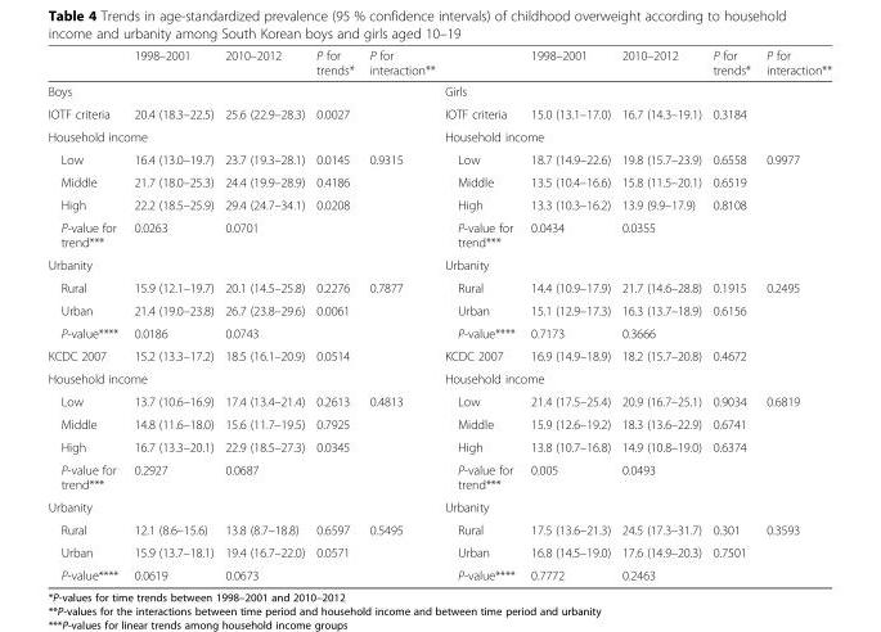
<table><thead><tr><td></td><td>1998–2001</td><td>2010–2012</td><td>P for trends*</td><td>P for interaction**</td><td></td><td>1998–2001</td><td>2010–2012</td><td>P for trends*</td><td>P for interaction**</td></tr></thead><tbody><tr><td>Boys</td><td></td><td></td><td></td><td></td><td>Girls</td><td></td><td></td><td></td><td></td></tr><tr><td>IOTF criteria</td><td>20.4 (18.3–22.5)</td><td>25.6 (22.9–28.3)</td><td>0.0027</td><td></td><td>IOTF criteria</td><td>15.0 (13.1–17.0)</td><td>16.7 (14.3–19.1)</td><td>0.3184</td><td></td></tr><tr><td colspan="2">Household income</td><td></td><td></td><td></td><td colspan="2">Household income</td><td></td><td></td><td></td></tr><tr><td>Low</td><td>16.4 (13.0–19.7)</td><td>23.7 (19.3–28.1)</td><td>0.0145</td><td>0.9315</td><td>Low</td><td>18.7 (14.9–22.6)</td><td>19.8 (15.7–23.9)</td><td>0.6558</td><td>0.9977</td></tr><tr><td>Middle</td><td>21.7 (18.0–25.3)</td><td>24.4 (19.9–28.9)</td><td>0.4186</td><td></td><td>Middle</td><td>13.5 (10.4–16.6)</td><td>15.8 (11.5–20.1)</td><td>0.6519</td><td></td></tr><tr><td>High</td><td>22.2 (18.5–25.9)</td><td>29.4 (24.7–34.1)</td><td>0.0208</td><td></td><td>High</td><td>13.3 (10.3–16.2)</td><td>13.9 (9.9–17.9)</td><td>0.8108</td><td></td></tr><tr><td>P-value for trend***</td><td>0.0263</td><td>0.0701</td><td></td><td></td><td>P-value for trend***</td><td>0.0434</td><td>0.0355</td><td></td><td></td></tr><tr><td>Urbanity</td><td></td><td></td><td></td><td></td><td>Urbanity</td><td></td><td></td><td></td><td></td></tr><tr><td>Rural</td><td>15.9 (12.1–19.7)</td><td>20.1 (14.5–25.8)</td><td>0.2276</td><td>0.7877</td><td>Rural</td><td>14.4 (10.9–17.9)</td><td>21.7 (14.6–28.8)</td><td>0.1915</td><td>0.2495</td></tr><tr><td>Urban</td><td>21.4 (19.0–23.8)</td><td>26.7 (23.8–29.6)</td><td>0.0061</td><td></td><td>Urban</td><td>15.1 (12.9–17.3)</td><td>16.3 (13.7–18.9)</td><td>0.6156</td><td></td></tr><tr><td>P-value****</td><td>0.0186</td><td>0.0743</td><td></td><td></td><td>P-value****</td><td>0.7173</td><td>0.3666</td><td></td><td></td></tr><tr><td>KCDC 2007</td><td>15.2 (13.3–17.2)</td><td>18.5 (16.1–20.9)</td><td>0.0514</td><td></td><td>KCDC 2007</td><td>16.9 (14.9–18.9)</td><td>18.2 (15.7–20.8)</td><td>0.4672</td><td></td></tr><tr><td colspan="2">Household income</td><td></td><td></td><td></td><td colspan="2">Household income</td><td></td><td></td><td></td></tr><tr><td>Low</td><td>13.7 (10.6–16.9)</td><td>17.4 (13.4–21.4)</td><td>0.2613</td><td>0.4813</td><td>Low</td><td>21.4 (17.5–25.4)</td><td>20.9 (16.7–25.1)</td><td>0.9034</td><td>0.6819</td></tr><tr><td>Middle</td><td>14.8 (11.6–18.0)</td><td>15.6 (11.7–19.5)</td><td>0.7925</td><td></td><td>Middle</td><td>15.9 (12.6–19.2)</td><td>18.3 (13.6–22.9)</td><td>0.6741</td><td></td></tr><tr><td>High</td><td>16.7 (13.3–20.1)</td><td>22.9 (18.5–27.3)</td><td>0.0345</td><td></td><td>High</td><td>13.8 (10.7–16.8)</td><td>14.9 (10.8–19.0)</td><td>0.6374</td><td></td></tr><tr><td>P-value for trend***</td><td>0.2927</td><td>0.0687</td><td></td><td></td><td>P-value for trend***</td><td>0.005</td><td>0.0493</td><td></td><td></td></tr><tr><td>Urbanity</td><td></td><td></td><td></td><td></td><td>Urbanity</td><td></td><td></td><td></td><td></td></tr><tr><td>Rural</td><td>12.1 (8.6–15.6)</td><td>13.8 (8.7–18.8)</td><td>0.6597</td><td>0.5495</td><td>Rural</td><td>17.5 (13.6–21.3)</td><td>24.5 (17.3–31.7)</td><td>0.301</td><td>0.3593</td></tr><tr><td>Urban</td><td>15.9 (13.7–18.1)</td><td>19.4 (16.7–22.0)</td><td>0.0571</td><td></td><td>Urban</td><td>16.8 (14.5–19.0)</td><td>17.6 (14.9–20.3)</td><td>0.7501</td><td></td></tr><tr><td>P-value****</td><td>0.0619</td><td>0.0673</td><td></td><td></td><td>P-value****</td><td>0.7772</td><td>0.2463</td><td></td><td></td></tr></tbody></table>